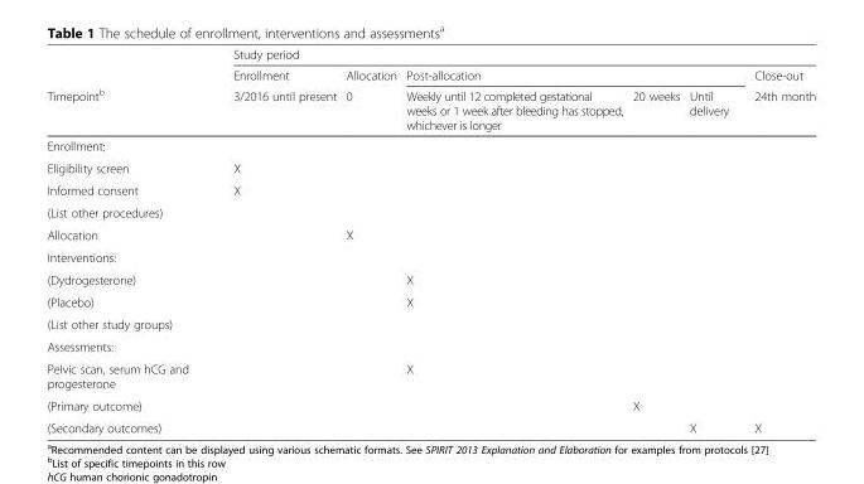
<table><thead><tr><td rowspan="3">Timepoint<sup>b</sup></td><td colspan="6">Study period</td></tr><tr><td rowspan="2">Enrollment 3/2016 until present</td><td rowspan="2">Allocation 0</td><td colspan="3">Post-allocation</td><td rowspan="2">Close-out 24th month</td></tr><tr><td>Weekly until 12 completed gestational weeks or 1 week after bleeding has stopped, whichever is longer</td><td>20 weeks</td><td>Until delivery</td></tr></thead><tbody><tr><td colspan="7">Enrollment:</td></tr><tr><td>Eligibility screen</td><td>X</td><td></td><td></td><td></td><td></td><td></td></tr><tr><td>Informed consent</td><td>X</td><td></td><td></td><td></td><td></td><td></td></tr><tr><td colspan="7">(List other procedures)</td></tr><tr><td>Allocation</td><td></td><td>X</td><td></td><td></td><td></td><td></td></tr><tr><td colspan="7">Interventions:</td></tr><tr><td>(Dydrogesterone)</td><td></td><td></td><td>X</td><td></td><td></td><td></td></tr><tr><td>(Placebo)</td><td></td><td></td><td>X</td><td></td><td></td><td></td></tr><tr><td colspan="7">(List other study groups)</td></tr><tr><td colspan="7">Assessments:</td></tr><tr><td>Pelvic scan, serum hCG and progesterone</td><td></td><td></td><td>X</td><td></td><td></td><td></td></tr><tr><td>(Primary outcome)</td><td></td><td></td><td></td><td>X</td><td></td><td></td></tr><tr><td>(Secondary outcomes)</td><td></td><td></td><td></td><td></td><td>X</td><td>X</td></tr></tbody></table>